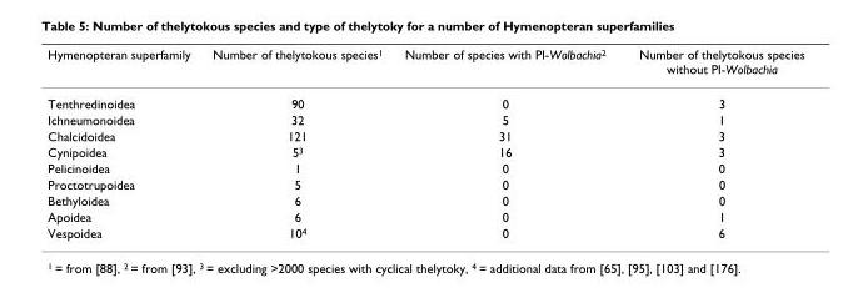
<table><thead><tr><td>Hymenopteran superfamily</td><td>Number of thelytokous species<sup>1</sup></td><td>Number of species with PI-Wolbachia<sup>2</sup></td><td>Number of thelytokous species without PI-Wolbachia</td></tr></thead><tbody><tr><td>Tenthredinoidea</td><td>90</td><td>0</td><td>3</td></tr><tr><td>Ichneumonoidea</td><td>32</td><td>5</td><td>1</td></tr><tr><td>Chalcidoidea</td><td>121</td><td>31</td><td>3</td></tr><tr><td>Cynipoidea</td><td>5<sup>3</sup></td><td>16</td><td>3</td></tr><tr><td>Pelicinoidea</td><td>1</td><td>0</td><td>0</td></tr><tr><td>Proctotrupoidea</td><td>5</td><td>0</td><td>0</td></tr><tr><td>Bethyloidea</td><td>6</td><td>0</td><td>0</td></tr><tr><td>Apoidea</td><td>6</td><td>0</td><td>1</td></tr><tr><td>Vespoidea</td><td>10<sup>4</sup></td><td>0</td><td>6</td></tr></tbody></table>